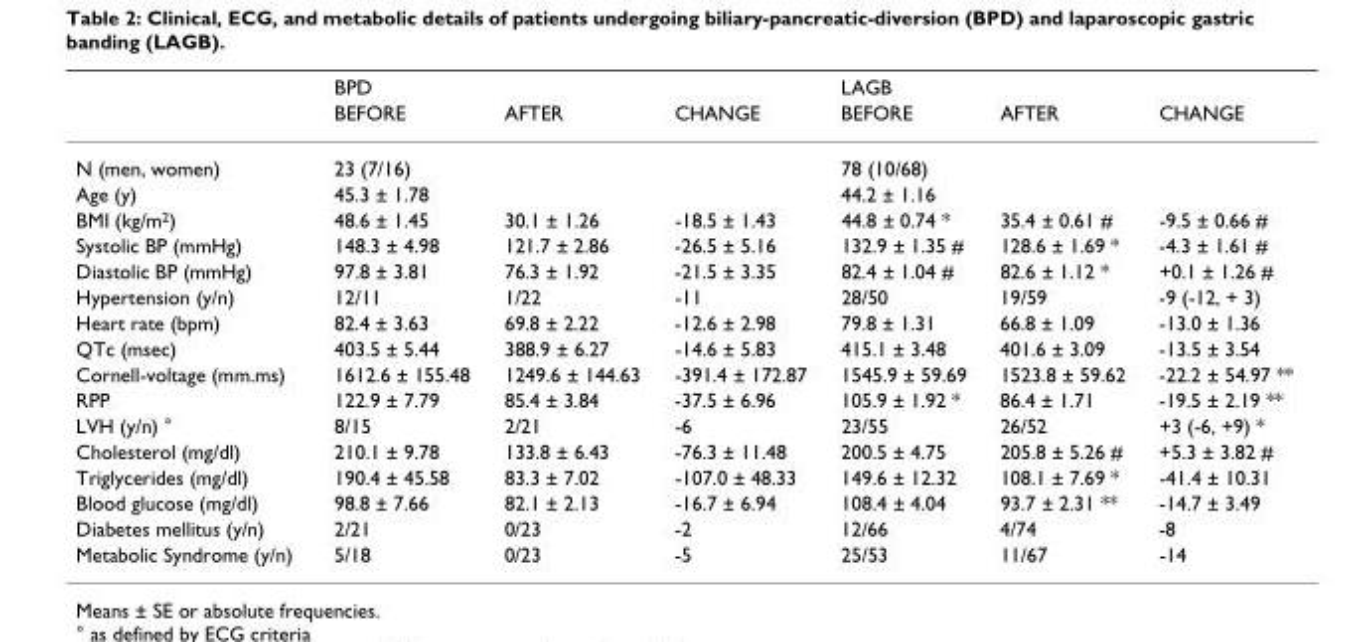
<table><thead><tr><td rowspan="2"></td><td rowspan="2">BPD BEFORE</td><td rowspan="2">AFTER</td><td rowspan="2">CHANGE</td><td rowspan="2">LAGB BEFORE</td><td rowspan="2">AFTER</td><td rowspan="2">CHANGE</td></tr><tr></tr></thead><tbody><tr><td>N (men, women)</td><td>23 (7/16)</td><td></td><td></td><td>78 (10/68)</td><td></td><td></td></tr><tr><td>Age (y)</td><td>45.3 ± 1.78</td><td></td><td></td><td>44.2 ± 1.16</td><td></td><td></td></tr><tr><td>BMI (kg/m<sup>2</sup>)</td><td>48.6 ± 1.45</td><td>30.1 ± 1.26</td><td>-18.5 ± 1.43</td><td>44.8 ± 0.74 *</td><td>35.4 ± 0.61 #</td><td>-9.5 ± 0.66 #</td></tr><tr><td>Systolic BP (mmHg)</td><td>148.3 ± 4.98</td><td>121.7 ± 2.86</td><td>-26.5 ± 5.16</td><td>132.9 ± 1.35 #</td><td>128.6 ± 1.69 *</td><td>-4.3 ± 1.61 #</td></tr><tr><td>Diastolic BP (mmHg)</td><td>97.8 ± 3.81</td><td>76.3 ± 1.92</td><td>-21.5 ± 3.35</td><td>82.4 ± 1.04 #</td><td>82.6 ± 1.12 *</td><td>+0.1 ± 1.26 #</td></tr><tr><td>Hypertension (y/n)</td><td>12/11</td><td>1/22</td><td>-11</td><td>28/50</td><td>19/59</td><td>-9 (-12, + 3)</td></tr><tr><td>Heart rate (bpm)</td><td>82.4 ± 3.63</td><td>69.8 ± 2.22</td><td>-12.6 ± 2.98</td><td>79.8 ± 1.31</td><td>66.8 ± 1.09</td><td>-13.0 ± 1.36</td></tr><tr><td>QTc (msec)</td><td>403.5 ± 5.44</td><td>388.9 ± 6.27</td><td>-14.6 ± 5.83</td><td>415.1 ± 3.48</td><td>401.6 ± 3.09</td><td>-13.5 ± 3.54</td></tr><tr><td>Cornell-voltage (mm.ms)</td><td>1612.6 ± 155.48</td><td>1249.6 ± 144.63</td><td>-391.4 ± 172.87</td><td>1545.9 ± 59.69</td><td>1523.8 ± 59.62</td><td>-22.2 ± 54.97 **</td></tr><tr><td>RPP</td><td>122.9 ± 7.79</td><td>85.4 ± 3.84</td><td>-37.5 ± 6.96</td><td>105.9 ± 1.92 *</td><td>86.4 ± 1.71</td><td>-19.5 ± 2.19 **</td></tr><tr><td>LVH (y/n) °</td><td>8/15</td><td>2/21</td><td>-6</td><td>23/55</td><td>26/52</td><td>+3 (-6, +9) *</td></tr><tr><td>Cholesterol (mg/dl)</td><td>210.1 ± 9.78</td><td>133.8 ± 6.43</td><td>-76.3 ± 11.48</td><td>200.5 ± 4.75</td><td>205.8 ± 5.26 #</td><td>+5.3 ± 3.82 #</td></tr><tr><td>Triglycerides (mg/dl)</td><td>190.4 ± 45.58</td><td>83.3 ± 7.02</td><td>-107.0 ± 48.33</td><td>149.6 ± 12.32</td><td>108.1 ± 7.69 *</td><td>-41.4 ± 10.31</td></tr><tr><td>Blood glucose (mg/dl)</td><td>98.8 ± 7.66</td><td>82.1 ± 2.13</td><td>-16.7 ± 6.94</td><td>108.4 ± 4.04</td><td>93.7 ± 2.31 **</td><td>-14.7 ± 3.49</td></tr><tr><td>Diabetes mellitus (y/n)</td><td>2/21</td><td>0/23</td><td>-2</td><td>12/66</td><td>4/74</td><td>-8</td></tr><tr><td>Metabolic Syndrome (y/n)</td><td>5/18</td><td>0/23</td><td>-5</td><td>25/53</td><td>11/67</td><td>-14</td></tr></tbody></table>